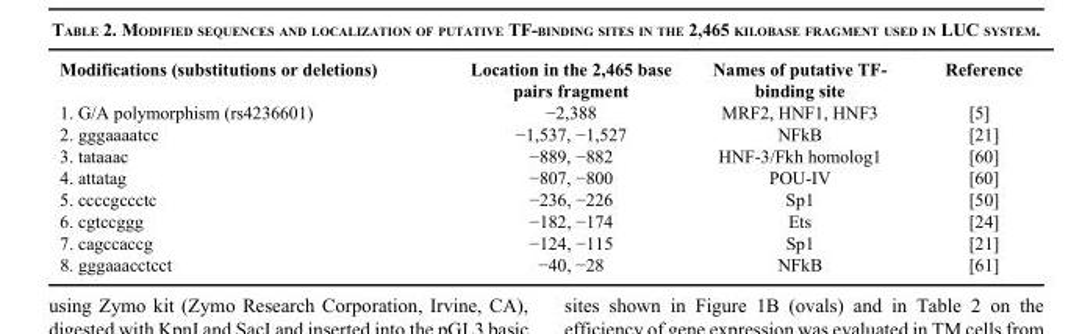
<table><thead><tr><td>Modifications (substitutions or deletions)</td><td>Location in the 2,465 base pairs fragment</td><td>Names of putative TF- binding site</td><td>Reference</td></tr></thead><tbody><tr><td>1. G/A polymorphism (rs4236601)</td><td>−2,388</td><td>MRF2, HNF1, HNF3</td><td>[5]</td></tr><tr><td>2. gggaaaatcc</td><td>−1,537, −1,527</td><td>NFkB</td><td>[21]</td></tr><tr><td>3. tataaac</td><td>−889, −882</td><td>HNF-3/Fkh homolog1</td><td>[60]</td></tr><tr><td>4. attatag</td><td>−807, −800</td><td>POU-IV</td><td>[60]</td></tr><tr><td>5. ccccgccctc</td><td>−236, −226</td><td>Sp1</td><td>[50]</td></tr><tr><td>6. cgtccggg</td><td>−182, −174</td><td>Ets</td><td>[24]</td></tr><tr><td>7. cagccaccg</td><td>−124, −115</td><td>Sp1</td><td>[21]</td></tr><tr><td>8. gggaaacctcct</td><td>−40, −28</td><td>NFkB</td><td>[61]</td></tr></tbody></table>